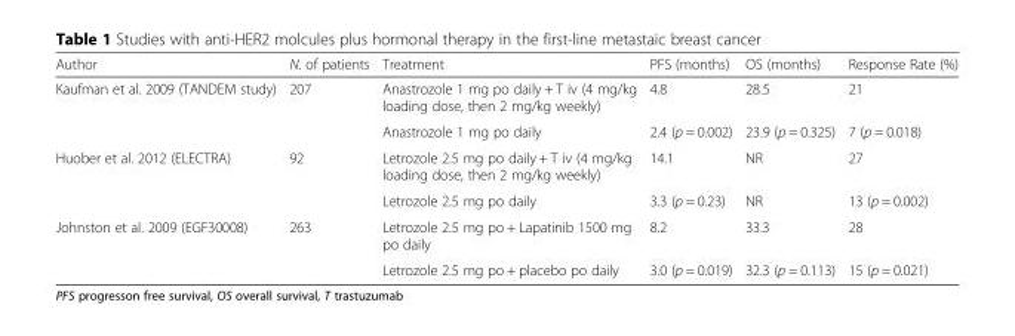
<table><thead><tr><td>Author</td><td>N. of patients</td><td>Treatment</td><td>PFS (months)</td><td>OS (months)</td><td>Response Rate (%)</td></tr></thead><tbody><tr><td rowspan="2">Kaufman et al. 2009 (TANDEM study)</td><td rowspan="2">207</td><td>Anastrozole 1 mg po daily + T iv (4 mg/kg loading dose, then 2 mg/kg weekly)</td><td>4.8</td><td>28.5</td><td>21</td></tr><tr><td>Anastrozole 1 mg po daily</td><td>2.4 (p = 0.002)</td><td>23.9 (p = 0.325)</td><td>7 (p = 0.018)</td></tr><tr><td rowspan="2">Huober et al. 2012 (ELECTRA)</td><td rowspan="2">92</td><td>Letrozole 2.5 mg po daily + T iv (4 mg/kg loading dose, then 2 mg/kg weekly)</td><td>14.1</td><td>NR</td><td>27</td></tr><tr><td>Letrozole 2.5 mg po daily</td><td>3.3 (p = 0.23)</td><td>NR</td><td>13 (p = 0.002)</td></tr><tr><td rowspan="2">Johnston et al. 2009 (EGF30008)</td><td rowspan="2">263</td><td>Letrozole 2.5 mg po + Lapatinib 1500 mg po daily</td><td>8.2</td><td>33.3</td><td>28</td></tr><tr><td>Letrozole 2.5 mg po + placebo po daily</td><td>3.0 (p = 0.019)</td><td>32.3 (p = 0.113)</td><td>15 (p = 0.021)</td></tr></tbody></table>